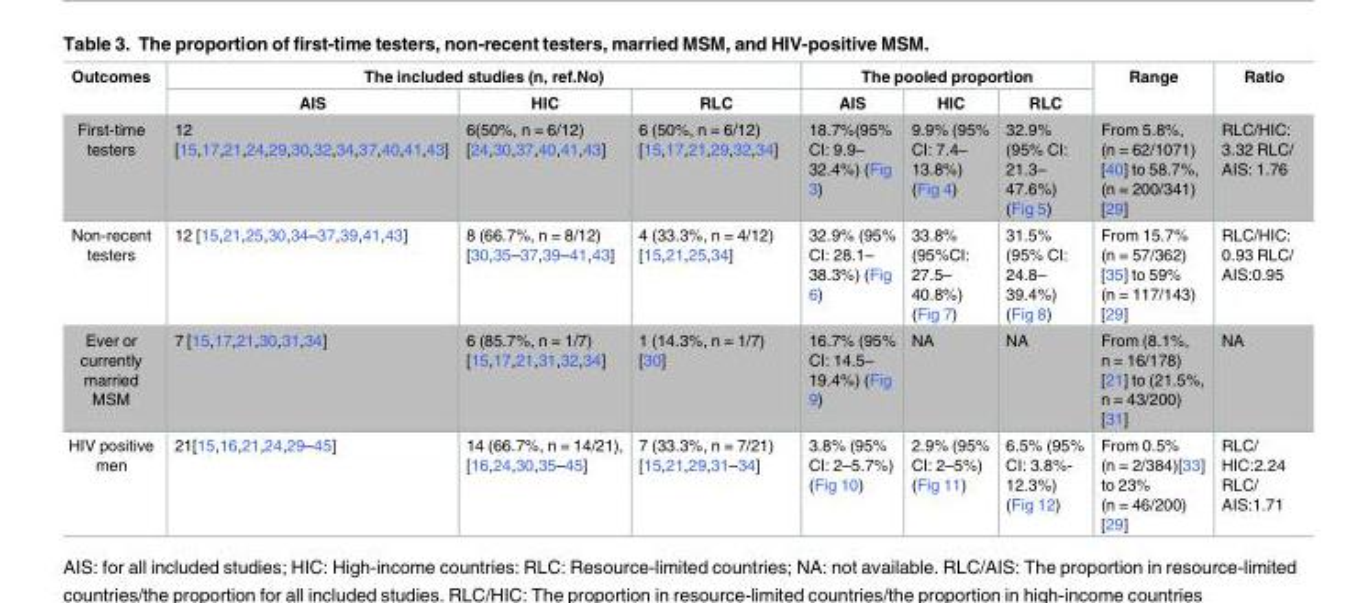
<table><thead><tr><td rowspan="2">Outcomes</td><td colspan="3">The included studies (n, ref.No)</td><td colspan="3">The pooled proportion</td><td rowspan="2">Range</td><td rowspan="2">Ratio</td></tr><tr><td>AIS</td><td>HIC</td><td>RLC</td><td>AIS</td><td>HIC</td><td>RLC</td></tr></thead><tbody><tr><td>First-time testers</td><td>12 [15,17,21,24,29,30,32,34,37,40,41,43]</td><td>6(50%, n = 6/12) [24,30,37,40,41,43]</td><td>6 (50%, n = 6/12) [15,17,21,29,32,34]</td><td>18.7%(95% CI: 9.9– 32.4%) (Fig 3)</td><td>9.9% (95% CI: 7.4– 13.8%) (Fig 4)</td><td>32.9% (95% CI: 21.3– 47.6%) (Fig 5)</td><td>From 5.8%, (n = 62/1071) [40] to 58.7%, (n = 200/341) [29]</td><td>RLC/HIC: 3.32 RLC/ AIS: 1.76</td></tr><tr><td>Non-recent testers</td><td>12 [15,21,25,30,34–37,39,41,43]</td><td>8 (66.7%, n = 8/12) [30,35–37,39–41,43]</td><td>4 (33.3%, n = 4/12) [15,21,25,34]</td><td>32.9% (95% CI: 28.1– 38.3%) (Fig 6)</td><td>33.8% (95%CI: 27.5– 40.8%) (Fig 7)</td><td>31.5% (95% CI: 24.8– 39.4%) (Fig 8)</td><td>From 15.7% (n = 57/362) [35] to 59% (n = 117/143) [29]</td><td>RLC/HIC: 0.93 RLC/ AIS:0.95</td></tr><tr><td>Ever or currently married MSM</td><td>7 [15,17,21,30,31,34]</td><td>6 (85.7%, n = 1/7) [15,17,21,31,32,34]</td><td>1 (14.3%, n = 1/7) [30]</td><td>16.7% (95% CI: 14.5– 19.4%) (Fig 9)</td><td>NA</td><td>NA</td><td>From (8.1%, n = 16/178) [21] to (21.5%, n = 43/200) [31]</td><td>NA</td></tr><tr><td>HIV positive men</td><td>21[15,16,21,24,29–45]</td><td>14 (66.7%, n = 14/21), [16,24,30,35–45]</td><td>7 (33.3%, n = 7/21) [15,21,29,31–34]</td><td>3.8% (95% CI: 2–5.7%) (Fig 10)</td><td>2.9% (95% CI: 2–5%) (Fig 11)</td><td>6.5% (95% CI: 3.8%- 12.3%) (Fig 12)</td><td>From 0.5% (n = 2/384)[33] to 23% (n = 46/200) [29]</td><td>RLC/ HIC:2.24 RLC/ AIS:1.71</td></tr></tbody></table>